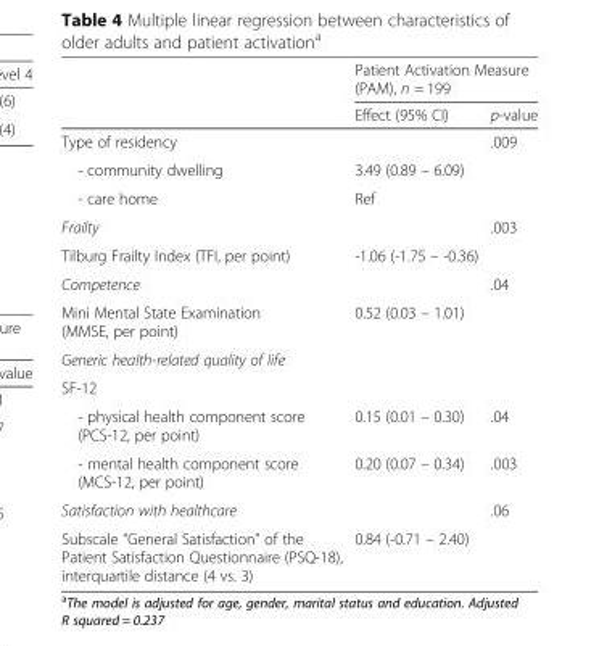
<table><thead><tr><td rowspan="2"></td><td colspan="2">Patient Activation Measure (PAM), n = 199</td></tr><tr><td>Effect (95% CI)</td><td>p-value</td></tr></thead><tbody><tr><td colspan="2">Type of residency</td><td rowspan="3">.009</td></tr><tr><td>- community dwelling</td><td>3.49 (0.89 – 6.09)</td></tr><tr><td>- care home</td><td>Ref</td></tr><tr><td colspan="2">Frailty</td><td rowspan="2">.003</td></tr><tr><td>Tilburg Frailty Index (TFI, per point)</td><td>-1.06 (-1.75 – -0.36)</td></tr><tr><td colspan="2">Competence</td><td rowspan="2">.04</td></tr><tr><td>Mini Mental State Examination (MMSE, per point)</td><td>0.52 (0.03 – 1.01)</td></tr><tr><td colspan="3">Generic health-related quality of life</td></tr><tr><td colspan="3">SF-12</td></tr><tr><td>- physical health component score (PCS-12, per point)</td><td>0.15 (0.01 – 0.30)</td><td>.04</td></tr><tr><td>- mental health component score (MCS-12, per point)</td><td>0.20 (0.07 – 0.34)</td><td>.003</td></tr><tr><td colspan="2">Satisfaction with healthcare</td><td rowspan="2">.06</td></tr><tr><td>Subscale “General Satisfaction” of the Patient Satisfaction Questionnaire (PSQ-18), interquartile distance (4 vs. 3)</td><td>0.84 (-0.71 – 2.40)</td></tr></tbody></table>